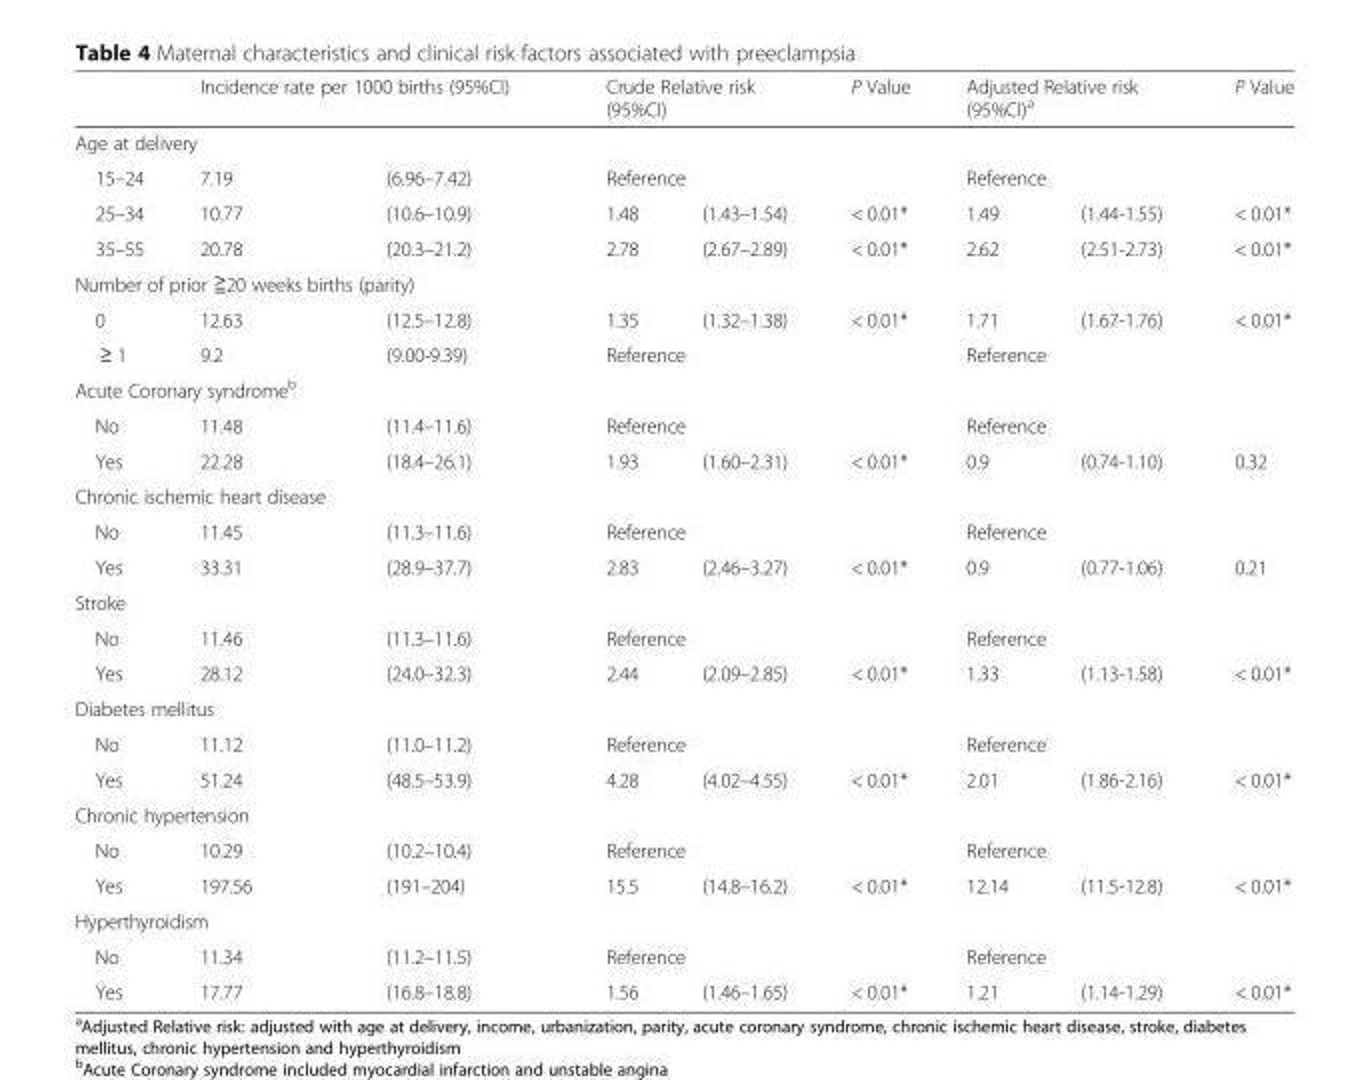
<table><thead><tr><td></td><td colspan="2">Incidence rate per 1000 births (95%CI)</td><td colspan="2">Crude Relative risk (95%CI)</td><td>P Value</td><td colspan="2">Adjusted Relative risk (95%CI)<sup>a</sup></td><td>P Value</td></tr><tr><td colspan="9">Age at delivery</td></tr><tr><td rowspan="2">15–24 25–34</td><td rowspan="2">7.19 10.77</td><td rowspan="2">(6.96–7.42) (10.6–10.9)</td><td colspan="2">Reference</td><td rowspan="2">&lt; 0.01*</td><td colspan="2">Reference</td><td rowspan="2">&lt; 0.01*</td></tr><tr><td>1.48</td><td>(1.43–1.54)</td><td>1.49</td><td>(1.44-1.55)</td></tr></thead><tbody><tr><td>35–55</td><td>20.78</td><td>(20.3–21.2)</td><td>2.78</td><td>(2.67–2.89)</td><td>&lt; 0.01*</td><td>2.62</td><td>(2.51-2.73)</td><td>&lt; 0.01*</td></tr><tr><td colspan="9">Number of prior ≧20 weeks births (parity)</td></tr><tr><td>0</td><td>12.63</td><td>(12.5–12.8)</td><td>1.35</td><td>(1.32–1.38)</td><td>&lt; 0.01*</td><td>1.71</td><td>(1.67-1.76)</td><td>&lt; 0.01*</td></tr><tr><td>≥ 1</td><td>9.2</td><td>(9.00-9.39)</td><td colspan="2">Reference</td><td></td><td colspan="2">Reference</td><td></td></tr><tr><td colspan="9">Acute Coronary syndrome<sup>b</sup></td></tr><tr><td>No</td><td>11.48</td><td>(11.4–11.6)</td><td colspan="2">Reference</td><td></td><td colspan="2">Reference</td><td></td></tr><tr><td>Yes</td><td>22.28</td><td>(18.4–26.1)</td><td>1.93</td><td>(1.60–2.31)</td><td>&lt; 0.01*</td><td>0.9</td><td>(0.74-1.10)</td><td>0.32</td></tr><tr><td colspan="9">Chronic ischemic heart disease</td></tr><tr><td>No</td><td>11.45</td><td>(11.3–11.6)</td><td colspan="2">Reference</td><td></td><td colspan="2">Reference</td><td></td></tr><tr><td>Yes</td><td>33.31</td><td>(28.9–37.7)</td><td>2.83</td><td>(2.46–3.27)</td><td>&lt; 0.01*</td><td>0.9</td><td>(0.77-1.06)</td><td>0.21</td></tr><tr><td colspan="9">Stroke</td></tr><tr><td>No</td><td>11.46</td><td>(11.3–11.6)</td><td colspan="2">Reference</td><td></td><td colspan="2">Reference</td><td></td></tr><tr><td>Yes</td><td>28.12</td><td>(24.0–32.3)</td><td>2.44</td><td>(2.09–2.85)</td><td>&lt; 0.01*</td><td>1.33</td><td>(1.13-1.58)</td><td>&lt; 0.01*</td></tr><tr><td colspan="9">Diabetes mellitus</td></tr><tr><td>No</td><td>11.12</td><td>(11.0–11.2)</td><td colspan="2">Reference</td><td></td><td colspan="2">Reference</td><td></td></tr><tr><td>Yes</td><td>51.24</td><td>(48.5–53.9)</td><td>4.28</td><td>(4.02–4.55)</td><td>&lt; 0.01*</td><td>2.01</td><td>(1.86-2.16)</td><td>&lt; 0.01*</td></tr><tr><td colspan="9">Chronic hypertension</td></tr><tr><td>No</td><td>10.29</td><td>(10.2–10.4)</td><td colspan="2">Reference</td><td></td><td colspan="2">Reference</td><td></td></tr><tr><td>Yes</td><td>197.56</td><td>(191–204)</td><td>15.5</td><td>(14.8–16.2)</td><td>&lt; 0.01*</td><td>12.14</td><td>(11.5-12.8)</td><td>&lt; 0.01*</td></tr><tr><td colspan="9">Hyperthyroidism</td></tr><tr><td>No</td><td>11.34</td><td>(11.2–11.5)</td><td colspan="2">Reference</td><td></td><td colspan="2">Reference</td><td></td></tr><tr><td>Yes</td><td>17.77</td><td>(16.8–18.8)</td><td>1.56</td><td>(1.46–1.65)</td><td>&lt; 0.01*</td><td>1.21</td><td>(1.14-1.29)</td><td>&lt; 0.01*</td></tr></tbody></table>